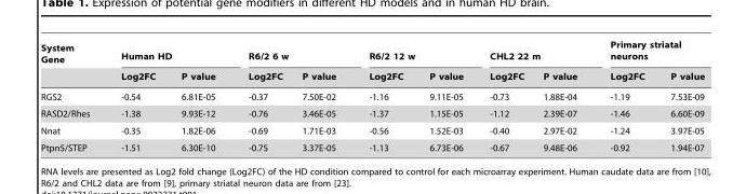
<table><thead><tr><td rowspan="2">System Gene</td><td colspan="2">Human HD</td><td colspan="2">R6/2 6 w</td><td colspan="2">R6/2 12 w</td><td colspan="2">CHL2 22 m</td><td colspan="2">Primary striatal neurons</td></tr><tr><td>Log2FC</td><td>P value</td><td>Log2FC</td><td>P value</td><td>Log2FC</td><td>P value</td><td>Log2FC</td><td>P value</td><td>Log2FC</td><td>P value</td></tr></thead><tbody><tr><td>RGS2</td><td>-0.54</td><td>6.81E-05</td><td>-0.37</td><td>7.50E-02</td><td>-1.16</td><td>9.11E-05</td><td>-0.73</td><td>1.88E-04</td><td>-1.19</td><td>7.53E-09</td></tr><tr><td>RASD2/Rhes</td><td>-1.38</td><td>9.93E-12</td><td>-0.76</td><td>3.46E-05</td><td>-1.37</td><td>1.15E-05</td><td>-1.12</td><td>2.39E-07</td><td>-1.46</td><td>6.60E-09</td></tr><tr><td>Nnat</td><td>-0.35</td><td>1.82E-06</td><td>-0.69</td><td>1.71E-03</td><td>-0.56</td><td>1.52E-03</td><td>-0.40</td><td>2.97E-02</td><td>-1.24</td><td>3.97E-05</td></tr><tr><td>Ptpn5/STEP</td><td>-1.51</td><td>6.30E-10</td><td>-0.75</td><td>3.37E-05</td><td>-1.13</td><td>6.73E-06</td><td>-0.67</td><td>9.48E-06</td><td>-0.92</td><td>1.94E-07</td></tr></tbody></table>